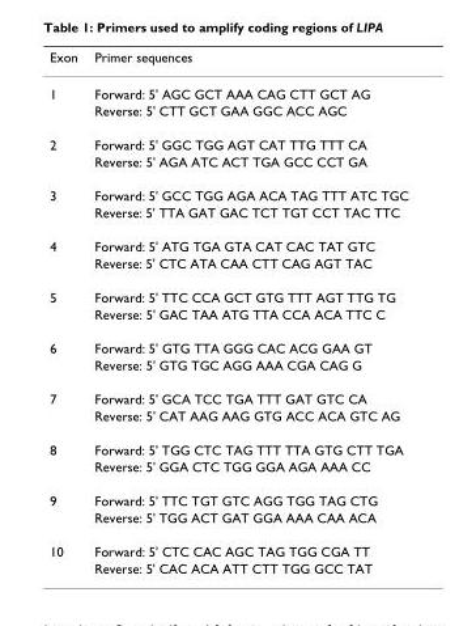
<table><thead><tr><td>Exon</td><td>Primer sequences</td></tr></thead><tbody><tr><td rowspan="2">1</td><td>Forward: 5&#x27; AGC GCT AAA CAG CTT GCT AG</td></tr><tr><td>Reverse: 5&#x27; CTT GCT GAA GGC ACC AGC</td></tr><tr><td rowspan="2">2</td><td>Forward: 5&#x27; GGC TGG AGT CAT TTG TTT CA</td></tr><tr><td>Reverse: 5&#x27; AGA ATC ACT TGA GCC CCT GA</td></tr><tr><td rowspan="2">3</td><td>Forward: 5&#x27; GCC TGG AGA ACA TAG TTT ATC TGC</td></tr><tr><td>Reverse: 5&#x27; TTA GAT GAC TCT TGT CCT TAC TTC</td></tr><tr><td rowspan="2">4</td><td>Forward: 5&#x27; ATG TGA GTA CAT CAC TAT GTC</td></tr><tr><td>Reverse: 5&#x27; CTC ATA CAA CTT CAG AGT TAC</td></tr><tr><td rowspan="2">5</td><td>Forward: 5&#x27; TTC CCA GCT GTG TTT AGT TTG TG</td></tr><tr><td>Reverse: 5&#x27; GAC TAA ATG TTA CCA ACA TTC C</td></tr><tr><td rowspan="2">6</td><td>Forward: 5&#x27; GTG TTA GGG CAC ACG GAA GT</td></tr><tr><td>Reverse: 5&#x27; GTG TGC AGG AAA CGA CAG G</td></tr><tr><td rowspan="2">7</td><td>Forward: 5&#x27; GCA TCC TGA TTT GAT GTC CA</td></tr><tr><td>Reverse: 5&#x27; CAT AAG AAG GTG ACC ACA GTC AG</td></tr><tr><td rowspan="2">8</td><td>Forward: 5&#x27; TGG CTC TAG TTT TTA GTG CTT TGA</td></tr><tr><td>Reverse: 5&#x27; GGA CTC TGG GGA AGA AAA CC</td></tr><tr><td rowspan="2">9</td><td>Forward: 5&#x27; TTC TGT GTC AGG TGG TAG CTG</td></tr><tr><td>Reverse: 5&#x27; TGG ACT GAT GGA AAA CAA ACA</td></tr><tr><td rowspan="2">10</td><td>Forward: 5&#x27; CTC CAC AGC TAG TGG CGA TT</td></tr><tr><td>Reverse: 5&#x27; CAC ACA ATT CTT TGG GCC TAT</td></tr></tbody></table>